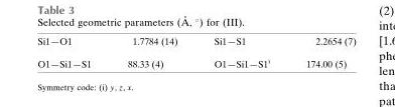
<table><tbody><tr><td>Si1—O1</td><td>1.7784 (14)</td><td>Si1—S1</td><td>2.2654 (7)</td></tr><tr><td>O1—Si1—S1</td><td>88.33 (4)</td><td>O1—Si1—S1<sup>i</sup></td><td>174.00 (5)</td></tr></tbody></table>